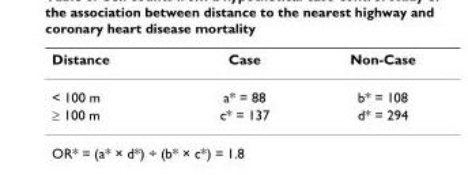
<table><thead><tr><td>Distance</td><td>Case</td><td>Non-Case</td></tr></thead><tbody><tr><td>&lt; 100 m</td><td>a* = 88</td><td>b* = 108</td></tr><tr><td>≥ 100 m</td><td>c* = 137</td><td>d* = 294</td></tr></tbody></table>